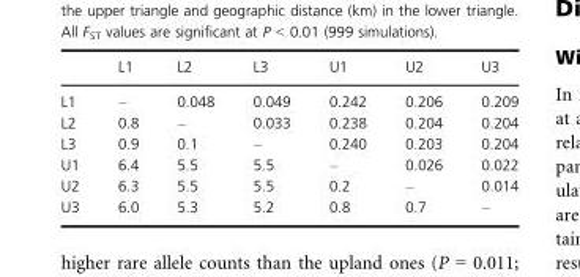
<table><thead><tr><td></td><td>L1</td><td>L2</td><td>L3</td><td>U1</td><td>U2</td><td>U3</td></tr></thead><tbody><tr><td>L1</td><td>–</td><td>0.048</td><td>0.049</td><td>0.242</td><td>0.206</td><td>0.209</td></tr><tr><td>L2</td><td>0.8</td><td>–</td><td>0.033</td><td>0.238</td><td>0.204</td><td>0.204</td></tr><tr><td>L3</td><td>0.9</td><td>0.1</td><td>–</td><td>0.240</td><td>0.203</td><td>0.204</td></tr><tr><td>U1</td><td>6.4</td><td>5.5</td><td>5.5</td><td>–</td><td>0.026</td><td>0.022</td></tr><tr><td>U2</td><td>6.3</td><td>5.5</td><td>5.5</td><td>0.2</td><td>–</td><td>0.014</td></tr><tr><td>U3</td><td>6.0</td><td>5.3</td><td>5.2</td><td>0.8</td><td>0.7</td><td>–</td></tr></tbody></table>